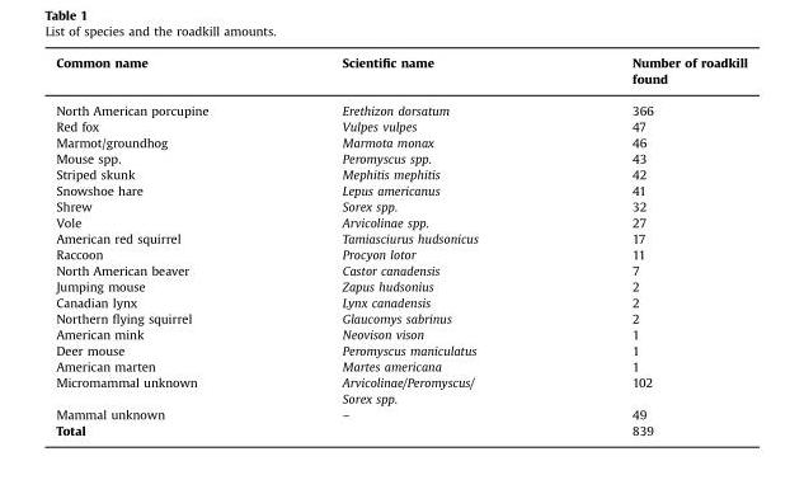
<table><thead><tr><td>Common name</td><td>Scientific name</td><td>Number of roadkill found</td></tr></thead><tbody><tr><td>North American porcupine</td><td>Erethizon dorsatum</td><td>366</td></tr><tr><td>Red fox</td><td>Vulpes vulpes</td><td>47</td></tr><tr><td>Marmot/groundhog</td><td>Marmota monax</td><td>46</td></tr><tr><td>Mouse spp.</td><td>Peromyscus spp.</td><td>43</td></tr><tr><td>Striped skunk</td><td>Mephitis mephitis</td><td>42</td></tr><tr><td>Snowshoe hare</td><td>Lepus americanus</td><td>41</td></tr><tr><td>Shrew</td><td>Sorex spp.</td><td>32</td></tr><tr><td>Vole</td><td>Arvicolinae spp.</td><td>27</td></tr><tr><td>American red squirrel</td><td>Tamiasciurus hudsonicus</td><td>17</td></tr><tr><td>Raccoon</td><td>Procyon lotor</td><td>11</td></tr><tr><td>North American beaver</td><td>Castor canadensis</td><td>7</td></tr><tr><td>Jumping mouse</td><td>Zapus hudsonius</td><td>2</td></tr><tr><td>Canadian lynx</td><td>Lynx canadensis</td><td>2</td></tr><tr><td>Northern flying squirrel</td><td>Glaucomys sabrinus</td><td>2</td></tr><tr><td>American mink</td><td>Neovison vison</td><td>1</td></tr><tr><td>Deer mouse</td><td>Peromyscus maniculatus</td><td>1</td></tr><tr><td>American marten</td><td>Martes americana</td><td>1</td></tr><tr><td>Micromammal unknown</td><td>Arvicolinae/Peromyscus/ Sorex spp.</td><td>102</td></tr><tr><td>Mammal unknown</td><td>–</td><td>49</td></tr><tr><td colspan="2">Total</td><td>839</td></tr></tbody></table>